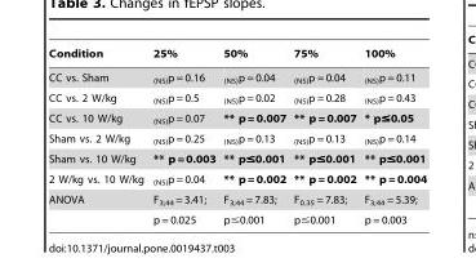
<table><thead><tr><td>Condition</td><td>25%</td><td>50%</td><td>75%</td><td>100%</td></tr></thead><tbody><tr><td>CC vs. Sham</td><td><sub>(NS)</sub>p = 0.16</td><td><sub>(NS)</sub>p = 0.04</td><td><sub>(NS)</sub>p = 0.04</td><td><sub>(NS)</sub>p = 0.11</td></tr><tr><td>CC vs. 2 W/kg</td><td><sub>(NS)</sub>p = 0.5</td><td><sub>(NS)</sub>p = 0.02</td><td><sub>(NS)</sub>p = 0.28</td><td><sub>(NS)</sub>p = 0.43</td></tr><tr><td>CC vs. 10 W/kg</td><td><sub>(NS)</sub>p = 0.07</td><td>** p = 0.007</td><td>** p = 0.007</td><td>* p≤0.05</td></tr><tr><td>Sham vs. 2 W/kg</td><td><sub>(NS)</sub>p = 0.25</td><td><sub>(NS)</sub>p = 0.13</td><td><sub>(NS)</sub>p = 0.13</td><td><sub>(NS)</sub>p = 0.14</td></tr><tr><td>Sham vs. 10 W/kg</td><td>** p = 0.003</td><td>** p≤0.001</td><td>** p≤0.001</td><td>** p≤0.001</td></tr><tr><td>2 W/kg vs. 10 W/kg</td><td><sub>(NS)</sub>p = 0.04</td><td>** p = 0.002</td><td>** p = 0.002</td><td>** p = 0.004</td></tr><tr><td rowspan="2">ANOVA</td><td>F<sub>3;44</sub> = 3.41;</td><td>F<sub>3;44</sub> = 7.83;</td><td>F<sub>0.35</sub> = 7.83;</td><td>F<sub>3;44</sub> = 5.39;</td></tr><tr><td>p = 0.025</td><td>p≤0.001</td><td>p≤0.001</td><td>p = 0.003</td></tr></tbody></table>